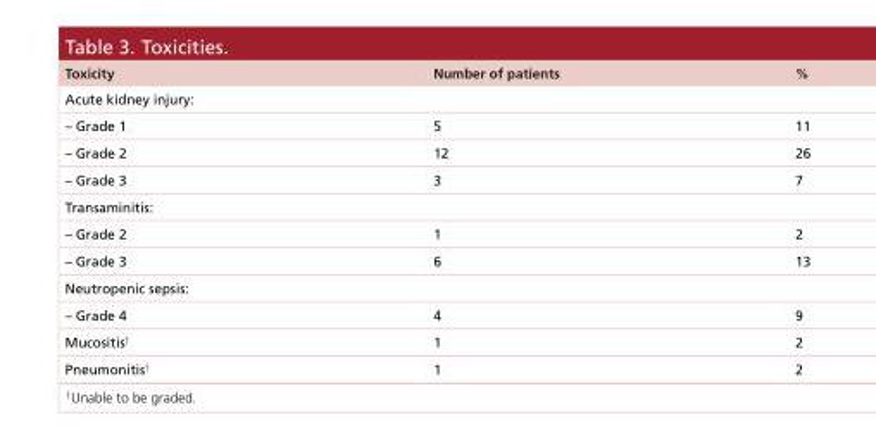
<table><thead><tr><td>Toxicity</td><td>Number of patients</td><td>%</td></tr></thead><tbody><tr><td colspan="3">Acute kidney injury:</td></tr><tr><td>– Grade 1</td><td>5</td><td>11</td></tr><tr><td>– Grade 2</td><td>12</td><td>26</td></tr><tr><td>– Grade 3</td><td>3</td><td>7</td></tr><tr><td colspan="3">Transaminitis:</td></tr><tr><td>– Grade 2</td><td>1</td><td>2</td></tr><tr><td>– Grade 3</td><td>6</td><td>13</td></tr><tr><td colspan="3">Neutropenic sepsis:</td></tr><tr><td>– Grade 4</td><td>4</td><td>9</td></tr><tr><td>Mucositis<sup>†</sup></td><td>1</td><td>2</td></tr><tr><td>Pneumonitis<sup>†</sup></td><td>1</td><td>2</td></tr></tbody></table>